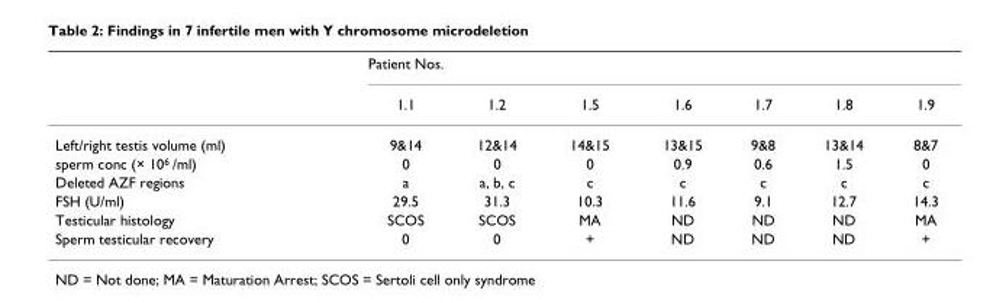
<table><thead><tr><td rowspan="2"></td><td colspan="7">Patient Nos.</td></tr><tr><td>1.1</td><td>1.2</td><td>1.5</td><td>1.6</td><td>1.7</td><td>1.8</td><td>1.9</td></tr></thead><tbody><tr><td>Left/right testis volume (ml)</td><td>9&amp;14</td><td>12&amp;14</td><td>14&amp;15</td><td>13&amp;15</td><td>9&amp;8</td><td>13&amp;14</td><td>8&amp;7</td></tr><tr><td>sperm conc (× 10<sup>6</sup> /ml)</td><td>0</td><td>0</td><td>0</td><td>0.9</td><td>0.6</td><td>1.5</td><td>0</td></tr><tr><td>Deleted AZF regions</td><td>a</td><td>a, b, c</td><td>c</td><td>c</td><td>c</td><td>c</td><td>c</td></tr><tr><td>FSH (U/ml)</td><td>29.5</td><td>31.3</td><td>10.3</td><td>11.6</td><td>9.1</td><td>12.7</td><td>14.3</td></tr><tr><td>Testicular histology</td><td>SCOS</td><td>SCOS</td><td>MA</td><td>ND</td><td>ND</td><td>ND</td><td>MA</td></tr><tr><td>Sperm testicular recovery</td><td>0</td><td>0</td><td>+</td><td>ND</td><td>ND</td><td>ND</td><td>+</td></tr></tbody></table>